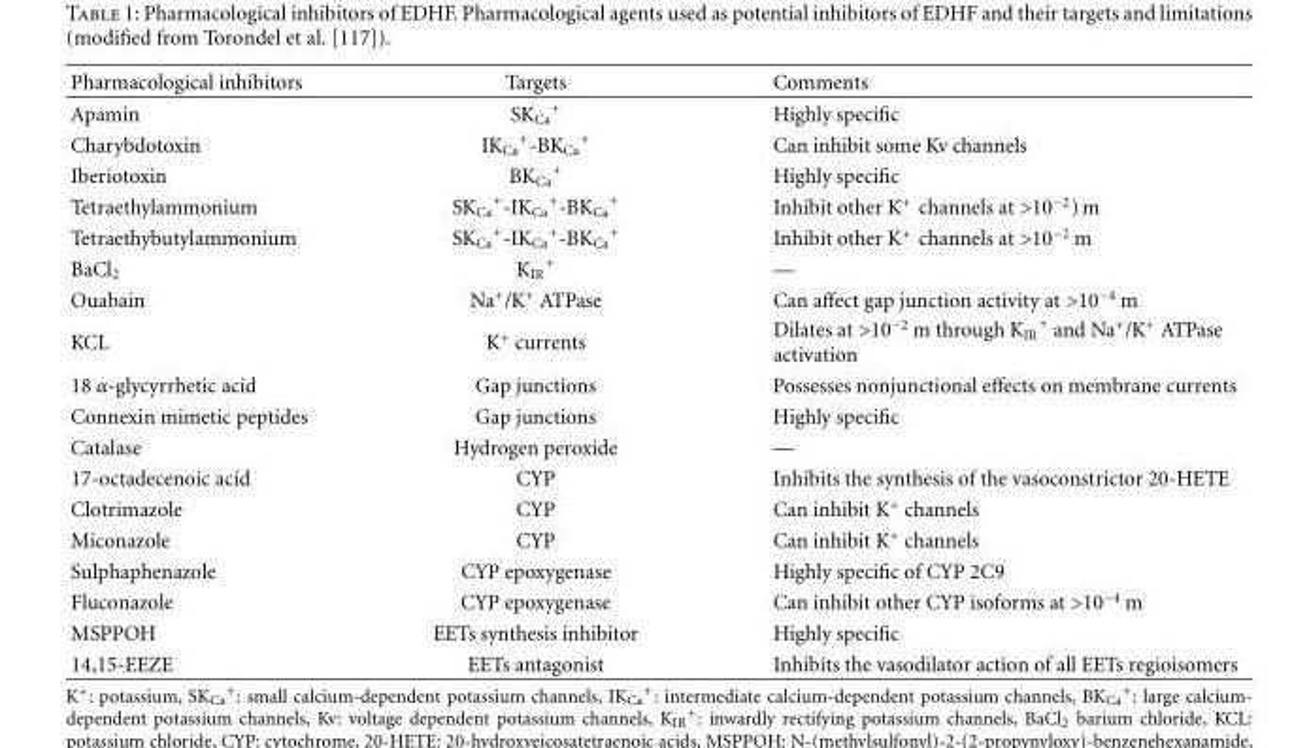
<table><thead><tr><td>Pharmacological inhibitors</td><td>Targets</td><td>Comments</td></tr></thead><tbody><tr><td>Apamin</td><td>SK<sub>Ca</sub> <sup>+</sup></td><td>Highly specific</td></tr><tr><td>Charybdotoxin</td><td>IK<sub>Ca</sub> <sup>+</sup>-BK<sub>Ca</sub> <sup>+</sup></td><td>Can inhibit some Kv channels</td></tr><tr><td>Iberiotoxin</td><td>BK<sub>Ca</sub> <sup>+</sup></td><td>Highly specific</td></tr><tr><td>Tetraethylammonium</td><td>SK<sub>Ca</sub> <sup>+</sup>-IK<sub>Ca</sub> <sup>+</sup>-BK<sub>Ca</sub> <sup>+</sup></td><td>Inhibit other K<sup>+</sup> channels at &gt;10<sup>−2</sup>) m</td></tr><tr><td>Tetraethybutylammonium</td><td>SK<sub>Ca</sub> <sup>+</sup>-IK<sub>Ca</sub> <sup>+</sup>-BK<sub>Ca</sub> <sup>+</sup></td><td>Inhibit other K<sup>+</sup> channels at &gt;10<sup>−2</sup> m</td></tr><tr><td>BaCl<sub>2</sub></td><td>K<sub>IR</sub> <sup>+</sup></td><td>—</td></tr><tr><td>Ouabain</td><td>Na<sup>+</sup>/K<sup>+</sup> ATPase</td><td>Can affect gap junction activity at &gt;10<sup>−4</sup> m</td></tr><tr><td>KCL</td><td>K<sup>+</sup> currents</td><td>Dilates at &gt;10<sup>−2</sup> m through K<sub>IR</sub> <sup>+</sup> and Na<sup>+</sup>/K<sup>+</sup> ATPase activation</td></tr><tr><td>18 α-glycyrrhetic acid</td><td>Gap junctions</td><td>Possesses nonjunctional effects on membrane currents</td></tr><tr><td>Connexin mimetic peptides</td><td>Gap junctions</td><td>Highly specific</td></tr><tr><td>Catalase</td><td>Hydrogen peroxide</td><td>—</td></tr><tr><td>17-octadecenoic acid</td><td>CYP</td><td>Inhibits the synthesis of the vasoconstrictor 20-HETE</td></tr><tr><td>Clotrimazole</td><td>CYP</td><td>Can inhibit K<sup>+</sup> channels</td></tr><tr><td>Miconazole</td><td>CYP</td><td>Can inhibit K<sup>+</sup> channels</td></tr><tr><td>Sulphaphenazole</td><td>CYP epoxygenase</td><td>Highly specific of CYP 2C9</td></tr><tr><td>Fluconazole</td><td>CYP epoxygenase</td><td>Can inhibit other CYP isoforms at &gt;10<sup>−4</sup> m</td></tr><tr><td>MSPPOH</td><td>EETs synthesis inhibitor</td><td>Highly specific</td></tr><tr><td>14,15-EEZE</td><td>EETs antagonist</td><td>Inhibits the vasodilator action of all EETs regioisomers</td></tr></tbody></table>